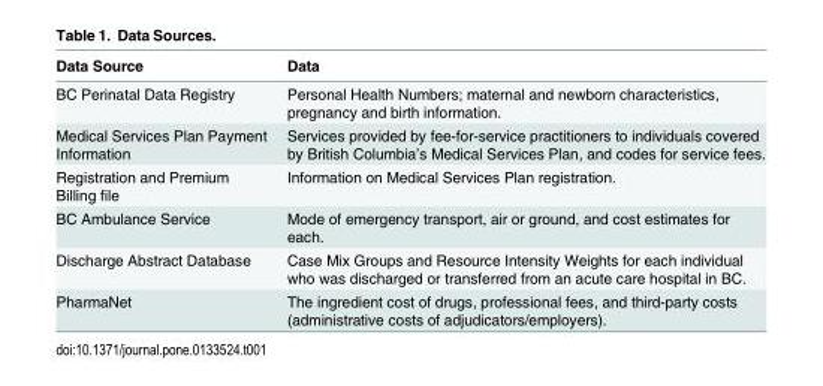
<table><thead><tr><td>Data Source</td><td>Data</td></tr></thead><tbody><tr><td>BC Perinatal Data Registry</td><td>Personal Health Numbers; maternal and newborn characteristics, pregnancy and birth information.</td></tr><tr><td>Medical Services Plan Payment Information</td><td>Services provided by fee-for-service practitioners to individuals covered by British Columbia’s Medical Services Plan, and codes for service fees.</td></tr><tr><td>Registration and Premium Billing file</td><td>Information on Medical Services Plan registration.</td></tr><tr><td>BC Ambulance Service</td><td>Mode of emergency transport, air or ground, and cost estimates for each.</td></tr><tr><td>Discharge Abstract Database</td><td>Case Mix Groups and Resource Intensity Weights for each individual who was discharged or transferred from an acute care hospital in BC.</td></tr><tr><td>PharmaNet</td><td>The ingredient cost of drugs, professional fees, and third-party costs (administrative costs of adjudicators/employers).</td></tr></tbody></table>